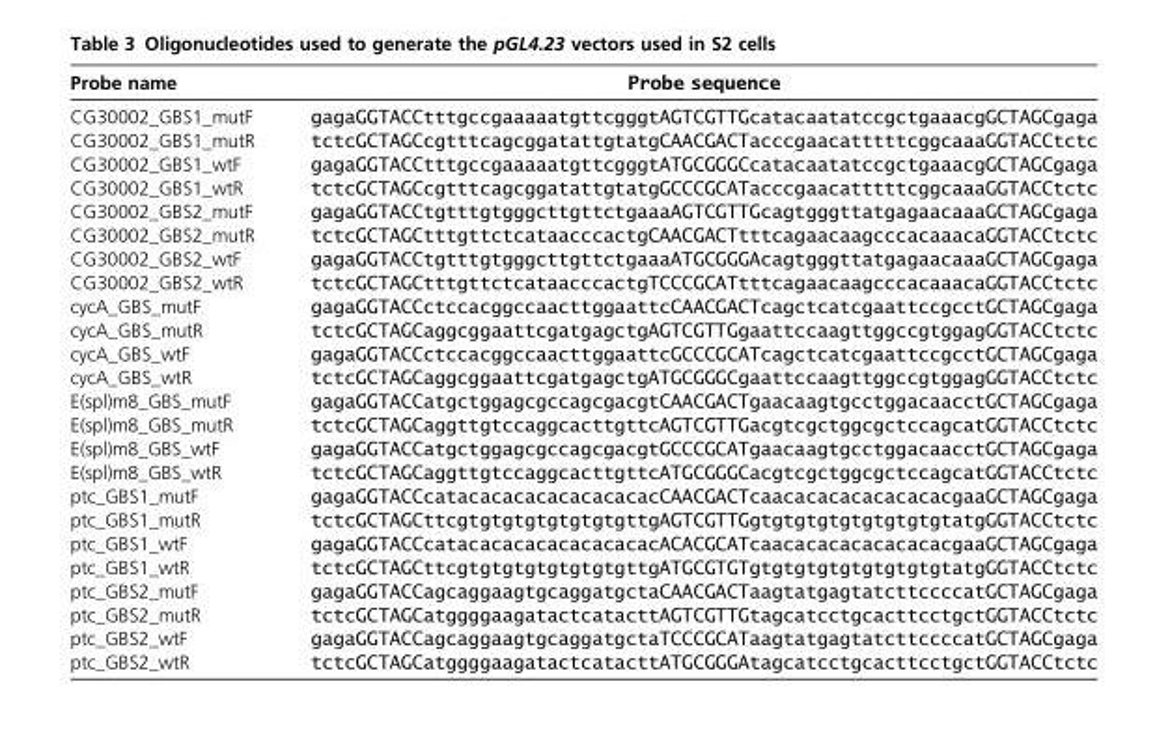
<table><thead><tr><td>Probe name</td><td>Probe sequence</td></tr></thead><tbody><tr><td>CG30002_GBS1_mutF</td><td>gagaGGTACCtttgccgaaaaatgttcgggtAGTCGTTGcatacaatatccgctgaaacgGCTAGCgaga</td></tr><tr><td>CG30002_GBS1_mutR</td><td>tctcGCTAGCcgtttcagcggatattgtatgCAACGACTacccgaacatttttcggcaaaGGTACCtctc</td></tr><tr><td>CG30002_GBS1_wtF</td><td>gagaGGTACCtttgccgaaaaatgttcgggtATGCGGGCcatacaatatccgctgaaacgGCTAGCgaga</td></tr><tr><td>CG30002_GBS1_wtR</td><td>tctcGCTAGCcgtttcagcggatattgtatgGCCCGCATacccgaacatttttcggcaaaGGTACCtctc</td></tr><tr><td>CG30002_GBS2_mutF</td><td>gagaGGTACCtgtttgtgggcttgttctgaaaAGTCGTTGcagtgggttatgagaacaaaGCTAGCgaga</td></tr><tr><td>CG30002_GBS2_mutR</td><td>tctcGCTAGCtttgttctcataacccactgCAACGACTtttcagaacaagcccacaaacaGGTACCtctc</td></tr><tr><td>CG30002_GBS2_wtF</td><td>gagaGGTACCtgtttgtgggcttgttctgaaaATGCGGGAcagtgggttatgagaacaaaGCTAGCgaga</td></tr><tr><td>CG30002_GBS2_wtR</td><td>tctcGCTAGCtttgttctcataacccactgTCCCGCATtttcagaacaagcccacaaacaGGTACCtctc</td></tr><tr><td>cycA_GBS_mutF</td><td>gagaGGTACCctccacggccaacttggaattcCAACGACTcagctcatcgaattccgcctGCTAGCgaga</td></tr><tr><td>cycA_GBS_mutR</td><td>tctcGCTAGCaggcggaattcgatgagctgAGTCGTTGgaattccaagttggccgtggagGGTACCtctc</td></tr><tr><td>cycA_GBS_wtF</td><td>gagaGGTACCctccacggccaacttggaattcGCCCGCATcagctcatcgaattccgcctGCTAGCgaga</td></tr><tr><td>cycA_GBS_wtR</td><td>tctcGCTAGCaggcggaattcgatgagctgATGCGGGCgaattccaagttggccgtggagGGTACCtctc</td></tr><tr><td>E(spl)m8_GBS_mutF</td><td>gagaGGTACCatgctggagcgccagcgacgtCAACGACTgaacaagtgcctggacaacctGCTAGCgaga</td></tr><tr><td>E(spl)m8_GBS_mutR</td><td>tctcGCTAGCaggttgtccaggcacttgttcAGTCGTTGacgtcgctggcgctccagcatGGTACCtctc</td></tr><tr><td>E(spl)m8_GBS_wtF</td><td>gagaGGTACCatgctggagcgccagcgacgtGCCCGCATgaacaagtgcctggacaacctGCTAGCgaga</td></tr><tr><td>E(spl)m8_GBS_wtR</td><td>tctcGCTAGCaggttgtccaggcacttgttcATGCGGGCacgtcgctggcgctccagcatGGTACCtctc</td></tr><tr><td>ptc_GBS1_mutF</td><td>gagaGGTACCcatacacacacacacacacacCAACGACTcaacacacacacacacacgaaGCTAGCgaga</td></tr><tr><td>ptc_GBS1_mutR</td><td>tctcGCTAGCttcgtgtgtgtgtgtgtgttgAGTCGTTGgtgtgtgtgtgtgtgtgtatgGGTACCtctc</td></tr><tr><td>ptc_GBS1_wtF</td><td>gagaGGTACCcatacacacacacacacacacACACGCATcaacacacacacacacacgaaGCTAGCgaga</td></tr><tr><td>ptc_GBS1_wtR</td><td>tctcGCTAGCttcgtgtgtgtgtgtgtgttgATGCGTGTgtgtgtgtgtgtgtgtgtatgGGTACCtctc</td></tr><tr><td>ptc_GBS2_mutF</td><td>gagaGGTACCagcaggaagtgcaggatgctaCAACGACTaagtatgagtatcttccccatGCTAGCgaga</td></tr><tr><td>ptc_GBS2_mutR</td><td>tctcGCTAGCatggggaagatactcatacttAGTCGTTGtagcatcctgcacttcctgctGGTACCtctc</td></tr><tr><td>ptc_GBS2_wtF</td><td>gagaGGTACCagcaggaagtgcaggatgctaTCCCGCATaagtatgagtatcttccccatGCTAGCgaga</td></tr><tr><td>ptc_GBS2_wtR</td><td>tctcGCTAGCatggggaagatactcatacttATGCGGGAtagcatcctgcacttcctgctGGTACCtctc</td></tr></tbody></table>